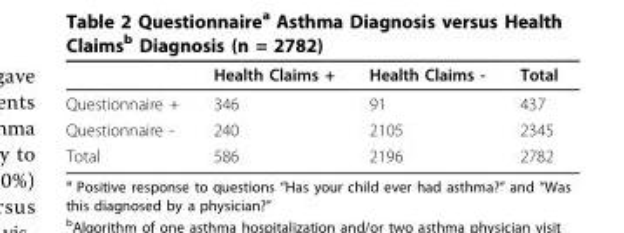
<table><thead><tr><td></td><td>Health Claims +</td><td>Health Claims -</td><td>Total</td></tr></thead><tbody><tr><td>Questionnaire +</td><td>346</td><td>91</td><td>437</td></tr><tr><td>Questionnaire -</td><td>240</td><td>2105</td><td>2345</td></tr><tr><td>Total</td><td>586</td><td>2196</td><td>2782</td></tr></tbody></table>